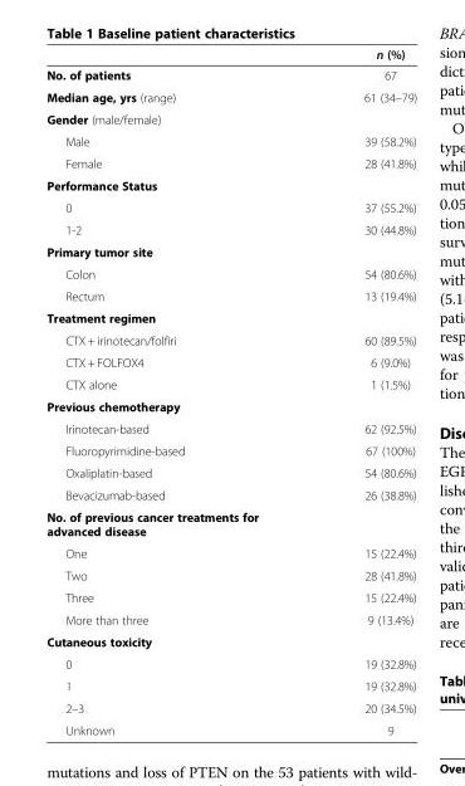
<table><thead><tr><td></td><td>n (%)</td></tr></thead><tbody><tr><td>No. of patients</td><td>67</td></tr><tr><td>Median age, yrs (range)</td><td>61 (34–79)</td></tr><tr><td colspan="2">Gender (male/female)</td></tr><tr><td>Male</td><td>39 (58.2%)</td></tr><tr><td>Female</td><td>28 (41.8%)</td></tr><tr><td colspan="2">Performance Status</td></tr><tr><td>0</td><td>37 (55.2%)</td></tr><tr><td>1-2</td><td>30 (44.8%)</td></tr><tr><td colspan="2">Primary tumor site</td></tr><tr><td>Colon</td><td>54 (80.6%)</td></tr><tr><td>Rectum</td><td>13 (19.4%)</td></tr><tr><td colspan="2">Treatment regimen</td></tr><tr><td>CTX + irinotecan/folfiri</td><td>60 (89.5%)</td></tr><tr><td>CTX + FOLFOX4</td><td>6 (9.0%)</td></tr><tr><td>CTX alone</td><td>1 (1.5%)</td></tr><tr><td colspan="2">Previous chemotherapy</td></tr><tr><td>Irinotecan-based</td><td>62 (92.5%)</td></tr><tr><td>Fluoropyrimidine-based</td><td>67 (100%)</td></tr><tr><td>Oxaliplatin-based</td><td>54 (80.6%)</td></tr><tr><td>Bevacizumab-based</td><td>26 (38.8%)</td></tr><tr><td colspan="2">No. of previous cancer treatments for advanced disease</td></tr><tr><td>One</td><td>15 (22.4%)</td></tr><tr><td>Two</td><td>28 (41.8%)</td></tr><tr><td>Three</td><td>15 (22.4%)</td></tr><tr><td>More than three</td><td>9 (13.4%)</td></tr><tr><td colspan="2">Cutaneous toxicity</td></tr><tr><td>0</td><td>19 (32.8%)</td></tr><tr><td>1</td><td>19 (32.8%)</td></tr><tr><td>2–3</td><td>20 (34.5%)</td></tr><tr><td>Unknown</td><td>9</td></tr></tbody></table>